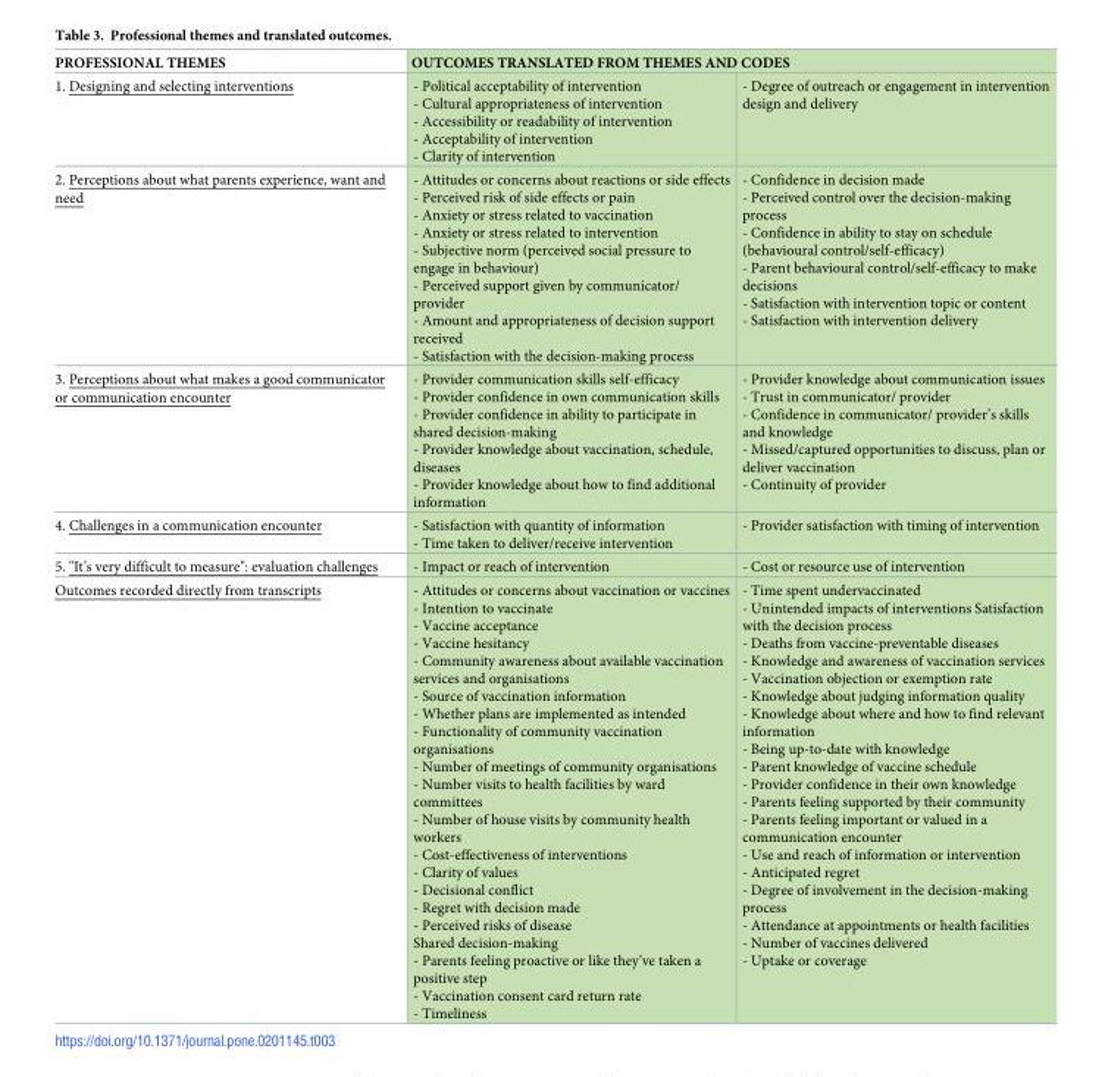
<table><thead><tr><td rowspan="2">PROFESSIONAL THEMES 1. Designing and selecting interventions</td><td colspan="2">OUTCOMES TRANSLATED FROM THEMES AND CODES</td></tr><tr><td>- Political acceptability of intervention - Cultural appropriateness of intervention - Accessibility or readability of intervention - Acceptability of intervention - Clarity of intervention</td><td>- Degree of outreach or engagement in intervention design and delivery</td></tr></thead><tbody><tr><td>2. Perceptions about what parents experience, want and need</td><td>- Attitudes or concerns about reactions or side effects - Perceived risk of side effects or pain - Anxiety or stress related to vaccination - Anxiety or stress related to intervention - Subjective norm (perceived social pressure to engage in behaviour) - Perceived support given by communicator/ provider - Amount and appropriateness of decision support received - Satisfaction with the decision-making process</td><td>- Confidence in decision made - Perceived control over the decision-making process - Confidence in ability to stay on schedule (behavioural control/self-efficacy) - Parent behavioural control/self-efficacy to make decisions - Satisfaction with intervention topic or content - Satisfaction with intervention delivery</td></tr><tr><td>3. Perceptions about what makes a good communicator or communication encounter</td><td>- Provider communication skills self-efficacy - Provider confidence in own communication skills - Provider confidence in ability to participate in shared decision-making - Provider knowledge about vaccination, schedule, diseases - Provider knowledge about how to find additional information</td><td>- Provider knowledge about communication issues - Trust in communicator/ provider - Confidence in communicator/ provider’s skills and knowledge - Missed/captured opportunities to discuss, plan or deliver vaccination - Continuity of provider</td></tr><tr><td>4. Challenges in a communication encounter</td><td>- Satisfaction with quantity of information - Time taken to deliver/receive intervention</td><td>- Provider satisfaction with timing of intervention</td></tr><tr><td>5. &quot;It’s very difficult to measure&quot;: evaluation challenges</td><td>- Impact or reach of intervention</td><td>- Cost or resource use of intervention</td></tr><tr><td>Outcomes recorded directly from transcripts</td><td>- Attitudes or concerns about vaccination or vaccines - Intention to vaccinate - Vaccine acceptance - Vaccine hesitancy - Community awareness about available vaccination services and organisations - Source of vaccination information - Whether plans are implemented as intended - Functionality of community vaccination organisations - Number of meetings of community organisations - Number visits to health facilities by ward committees - Number of house visits by community health workers - Cost-effectiveness of interventions - Clarity of values - Decisional conflict - Regret with decision made - Perceived risks of disease Shared decision-making - Parents feeling proactive or like they’ve taken a positive step - Vaccination consent card return rate - Timeliness</td><td>- Time spent undervaccinated - Unintended impacts of interventions Satisfaction with the decision process - Deaths from vaccine-preventable diseases - Knowledge and awareness of vaccination services - Vaccination objection or exemption rate - Knowledge about judging information quality - Knowledge about where and how to find relevant information - Being up-to-date with knowledge - Parent knowledge of vaccine schedule - Provider confidence in their own knowledge - Parents feeling supported by their community - Parents feeling important or valued in a communication encounter - Use and reach of information or intervention - Anticipated regret - Degree of involvement in the decision-making process - Attendance at appointments or health facilities - Number of vaccines delivered - Uptake or coverage</td></tr></tbody></table>